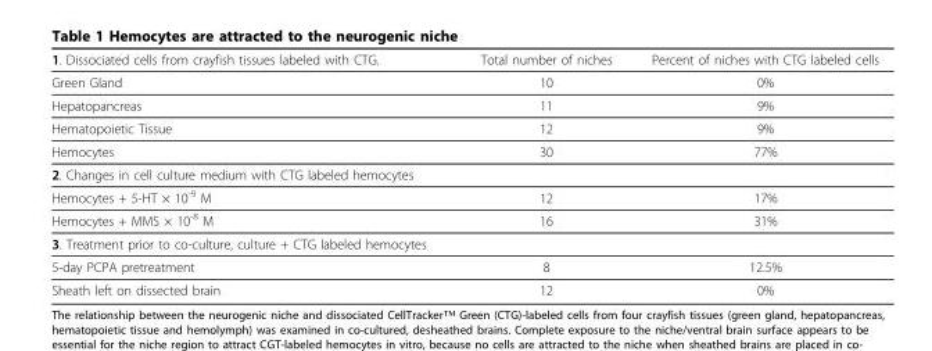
<table><thead><tr><td>1. Dissociated cells from crayfish tissues labeled with CTG.</td><td>Total number of niches</td><td>Percent of niches with CTG labeled cells</td></tr></thead><tbody><tr><td>Green Gland</td><td>10</td><td>0%</td></tr><tr><td>Hepatopancreas</td><td>11</td><td>9%</td></tr><tr><td>Hematopoietic Tissue</td><td>12</td><td>9%</td></tr><tr><td>Hemocytes</td><td>30</td><td>77%</td></tr><tr><td colspan="3">2. Changes in cell culture medium with CTG labeled hemocytes</td></tr><tr><td>Hemocytes + 5-HT × 10<sup>-9</sup> M</td><td>12</td><td>17%</td></tr><tr><td>Hemocytes + MMS × 10<sup>-8</sup> M</td><td>16</td><td>31%</td></tr><tr><td colspan="3">3. Treatment prior to co-culture, culture + CTG labeled hemocytes</td></tr><tr><td>5-day PCPA pretreatment</td><td>8</td><td>12.5%</td></tr><tr><td>Sheath left on dissected brain</td><td>12</td><td>0%</td></tr></tbody></table>